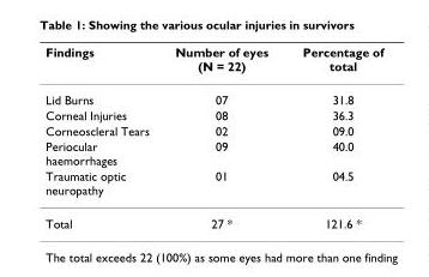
<table><thead><tr><td>Findings</td><td>Number of eyes (N = 22)</td><td>Percentage of total</td></tr></thead><tbody><tr><td>Lid Burns</td><td>07</td><td>31.8</td></tr><tr><td>Corneal Injuries</td><td>08</td><td>36.3</td></tr><tr><td>Corneoscleral Tears</td><td>02</td><td>09.0</td></tr><tr><td>Periocular haemorrhages</td><td>09</td><td>40.0</td></tr><tr><td>Traumatic optic neuropathy</td><td>01</td><td>04.5</td></tr><tr><td>Total</td><td>27 *</td><td>121.6 *</td></tr></tbody></table>